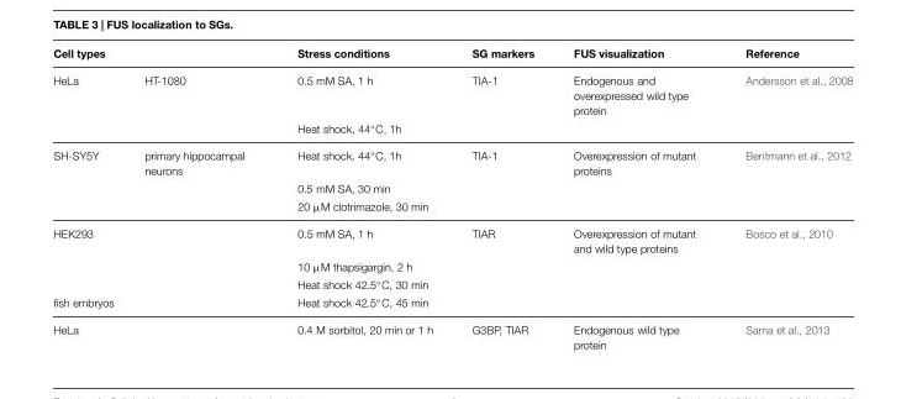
<table><thead><tr><td>Cell types</td><td></td><td>Stress conditions</td><td>SG markers</td><td>FUS visualization</td><td>Reference</td></tr></thead><tbody><tr><td rowspan="2">HeLa</td><td>HT-1080</td><td>0.5 mM SA, 1 h</td><td>TIA-1</td><td>Endogenous and overexpressed wild type protein</td><td>Andersson et al., 2008</td></tr><tr><td></td><td>Heat shock, 44◦C, 1h</td><td></td><td></td><td></td></tr><tr><td rowspan="3">SH-SY5Y</td><td>primary hippocampal neurons</td><td>Heat shock, 44◦C, 1h</td><td>TIA-1</td><td>Overexpression of mutant proteins</td><td>Bentmann et al., 2012</td></tr><tr><td></td><td>0.5 mM SA, 30 min</td><td></td><td></td><td></td></tr><tr><td></td><td>20 μM clotrimazole, 30 min</td><td></td><td></td><td></td></tr><tr><td rowspan="3" colspan="2">HEK293</td><td>0.5 mM SA, 1 h</td><td>TIAR</td><td>Overexpression of mutant and wild type proteins</td><td>Bosco et al., 2010</td></tr><tr><td>10 μM thapsigargin, 2 h</td><td></td><td></td><td></td></tr><tr><td>Heat shock 42.5◦C, 30 min</td><td></td><td></td><td></td></tr><tr><td colspan="2">fish embryos</td><td>Heat shock 42.5◦C, 45 min</td><td></td><td></td><td></td></tr><tr><td colspan="2">HeLa</td><td>0.4 M sorbitol, 20 min or 1 h</td><td>G3BP, TIAR</td><td>Endogenous wild type protein</td><td>Sama et al., 2013</td></tr></tbody></table>